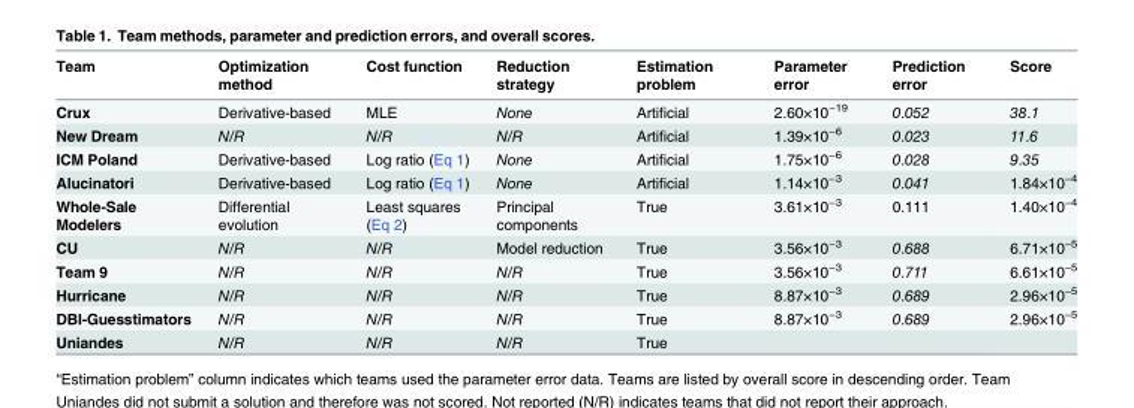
<table><thead><tr><td>Team</td><td>Optimization method</td><td>Cost function</td><td>Reduction strategy</td><td>Estimation problem</td><td>Parameter error</td><td>Prediction error</td><td>Score</td></tr></thead><tbody><tr><td>Crux</td><td>Derivative-based</td><td>MLE</td><td>None</td><td>Artificial</td><td>2.60×10<sup>−19</sup></td><td>0.052</td><td>38.1</td></tr><tr><td>New Dream</td><td>N/R</td><td>N/R</td><td>N/R</td><td>Artificial</td><td>1.39×10<sup>−6</sup></td><td>0.023</td><td>11.6</td></tr><tr><td>ICM Poland</td><td>Derivative-based</td><td>Log ratio (Eq 1)</td><td>None</td><td>Artificial</td><td>1.75×10<sup>−6</sup></td><td>0.028</td><td>9.35</td></tr><tr><td>Alucinatori</td><td>Derivative-based</td><td>Log ratio (Eq 1)</td><td>None</td><td>Artificial</td><td>1.14×10<sup>−3</sup></td><td>0.041</td><td>1.84×10<sup>−4</sup></td></tr><tr><td>Whole-Sale Modelers</td><td>Differential evolution</td><td>Least squares (Eq 2)</td><td>Principal components</td><td>True</td><td>3.61×10<sup>−3</sup></td><td>0.111</td><td>1.40×10<sup>−4</sup></td></tr><tr><td>CU</td><td>N/R</td><td>N/R</td><td>Model reduction</td><td>True</td><td>3.56×10<sup>−3</sup></td><td>0.688</td><td>6.71×10<sup>−5</sup></td></tr><tr><td>Team 9</td><td>N/R</td><td>N/R</td><td>N/R</td><td>True</td><td>3.56×10<sup>−3</sup></td><td>0.711</td><td>6.61×10<sup>−5</sup></td></tr><tr><td>Hurricane</td><td>N/R</td><td>N/R</td><td>N/R</td><td>True</td><td>8.87×10<sup>−3</sup></td><td>0.689</td><td>2.96×10<sup>−5</sup></td></tr><tr><td>DBI-Guesstimators</td><td>N/R</td><td>N/R</td><td>N/R</td><td>True</td><td>8.87×10<sup>−3</sup></td><td>0.689</td><td>2.96×10<sup>−5</sup></td></tr><tr><td>Uniandes</td><td>N/R</td><td>N/R</td><td>N/R</td><td>True</td><td></td><td></td><td></td></tr></tbody></table>